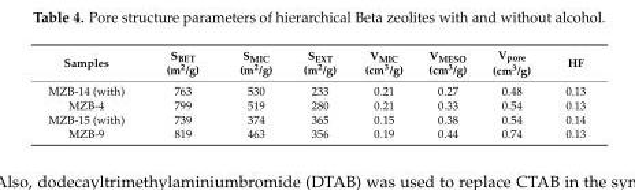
<table><thead><tr><td>Samples</td><td>SBET (m2/g)</td><td>SMIC (m2/g)</td><td>SEXT (m2/g)</td><td>VMIC (cm3/g)</td><td>VMESO (cm3/g)</td><td>Vpore (cm3/g)</td><td>HF</td></tr></thead><tbody><tr><td>MZB-14 (with)</td><td>763</td><td>530</td><td>233</td><td>0.21</td><td>0.27</td><td>0.48</td><td>0.13</td></tr><tr><td>MZB-4</td><td>799</td><td>519</td><td>280</td><td>0.21</td><td>0.33</td><td>0.54</td><td>0.13</td></tr><tr><td>MZB-15 (with)</td><td>739</td><td>374</td><td>365</td><td>0.15</td><td>0.38</td><td>0.54</td><td>0.14</td></tr><tr><td>MZB-9</td><td>819</td><td>463</td><td>356</td><td>0.19</td><td>0.44</td><td>0.74</td><td>0.13</td></tr></tbody></table>